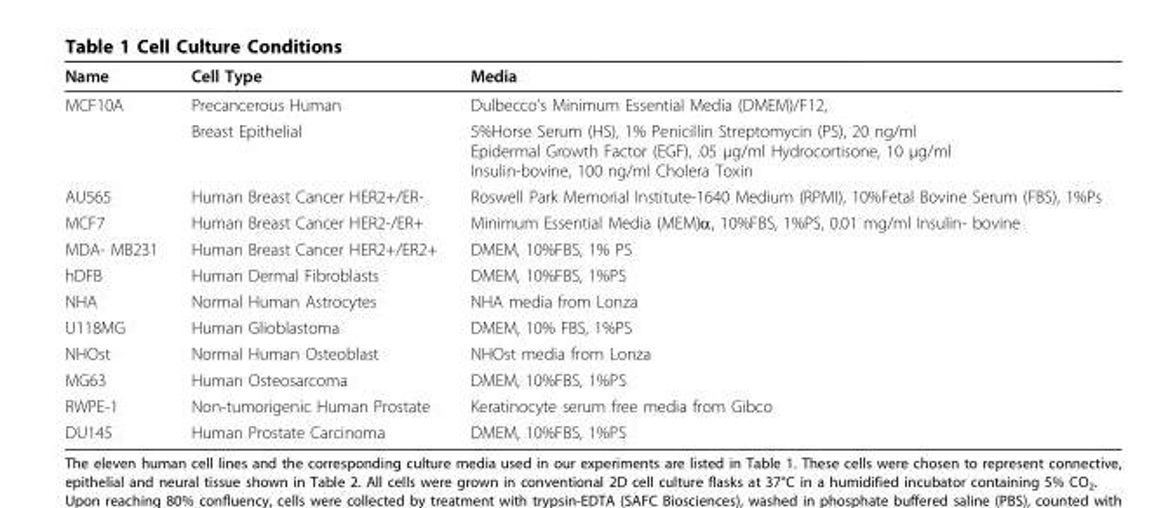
<table><thead><tr><td>Name</td><td>Cell Type</td><td>Media</td></tr></thead><tbody><tr><td rowspan="2">MCF10A</td><td>Precancerous Human</td><td>Dulbecco’s Minimum Essential Media (DMEM)/F12,</td></tr><tr><td>Breast Epithelial</td><td>5%Horse Serum (HS), 1% Penicillin Streptomycin (PS), 20 ng/ml Epidermal Growth Factor (EGF), .05 μg/ml Hydrocortisone, 10 μg/ml Insulin-bovine, 100 ng/ml Cholera Toxin</td></tr><tr><td>AU565</td><td>Human Breast Cancer HER2+/ER-</td><td>Roswell Park Memorial Institute-1640 Medium (RPMI), 10%Fetal Bovine Serum (FBS), 1%Ps</td></tr><tr><td>MCF7</td><td>Human Breast Cancer HER2-/ER+</td><td>Minimum Essential Media (MEM)α, 10%FBS, 1%PS, 0.01 mg/ml Insulin- bovine</td></tr><tr><td>MDA- MB231</td><td>Human Breast Cancer HER2+/ER2+</td><td>DMEM, 10%FBS, 1% PS</td></tr><tr><td>hDFB</td><td>Human Dermal Fibroblasts</td><td>DMEM, 10%FBS, 1%PS</td></tr><tr><td>NHA</td><td>Normal Human Astrocytes</td><td>NHA media from Lonza</td></tr><tr><td>U118MG</td><td>Human Glioblastoma</td><td>DMEM, 10% FBS, 1%PS</td></tr><tr><td>NHOst</td><td>Normal Human Osteoblast</td><td>NHOst media from Lonza</td></tr><tr><td>MG63</td><td>Human Osteosarcoma</td><td>DMEM, 10%FBS, 1%PS</td></tr><tr><td>RWPE-1</td><td>Non-tumorigenic Human Prostate</td><td>Keratinocyte serum free media from Gibco</td></tr><tr><td>DU145</td><td>Human Prostate Carcinoma</td><td>DMEM, 10%FBS, 1%PS</td></tr></tbody></table>